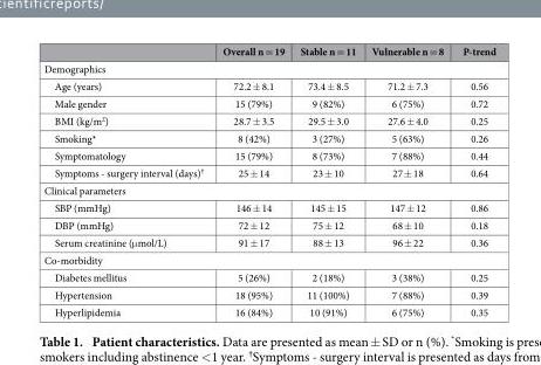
<table><thead><tr><td></td><td>Overall n = 19</td><td>Stable n = 11</td><td>Vulnerable n = 8</td><td>P-trend</td></tr></thead><tbody><tr><td colspan="5">Demographics</td></tr><tr><td>Age (years)</td><td>72.2 ± 8.1</td><td>73.4 ± 8.5</td><td>71.2 ± 7.3</td><td>0.56</td></tr><tr><td>Male gender</td><td>15 (79%)</td><td>9 (82%)</td><td>6 (75%)</td><td>0.72</td></tr><tr><td>BMI (kg/m<sup>2</sup>)</td><td>28.7 ± 3.5</td><td>29.5 ± 3.0</td><td>27.6 ± 4.0</td><td>0.25</td></tr><tr><td>Smoking*</td><td>8 (42%)</td><td>3 (27%)</td><td>5 (63%)</td><td>0.26</td></tr><tr><td>Symptomatology</td><td>15 (79%)</td><td>8 (73%)</td><td>7 (88%)</td><td>0.44</td></tr><tr><td>Symptoms - surgery interval (days)†</td><td>25 ± 14</td><td>23 ± 10</td><td>27 ± 18</td><td>0.64</td></tr><tr><td colspan="5">Clinical parameters</td></tr><tr><td>SBP (mmHg)</td><td>146 ± 14</td><td>145 ± 15</td><td>147 ± 12</td><td>0.86</td></tr><tr><td>DBP (mmHg)</td><td>72 ± 12</td><td>75 ± 12</td><td>68 ± 10</td><td>0.18</td></tr><tr><td>Serum creatinine (μ mol/L)</td><td>91 ± 17</td><td>88 ± 13</td><td>96 ± 22</td><td>0.36</td></tr><tr><td colspan="5">Co-morbidity</td></tr><tr><td>Diabetes mellitus</td><td>5 (26%)</td><td>2 (18%)</td><td>3 (38%)</td><td>0.25</td></tr><tr><td>Hypertension</td><td>18 (95%)</td><td>11 (100%)</td><td>7 (88%)</td><td>0.39</td></tr><tr><td>Hyperlipidemia</td><td>16 (84%)</td><td>10 (91%)</td><td>6 (75%)</td><td>0.35</td></tr></tbody></table>